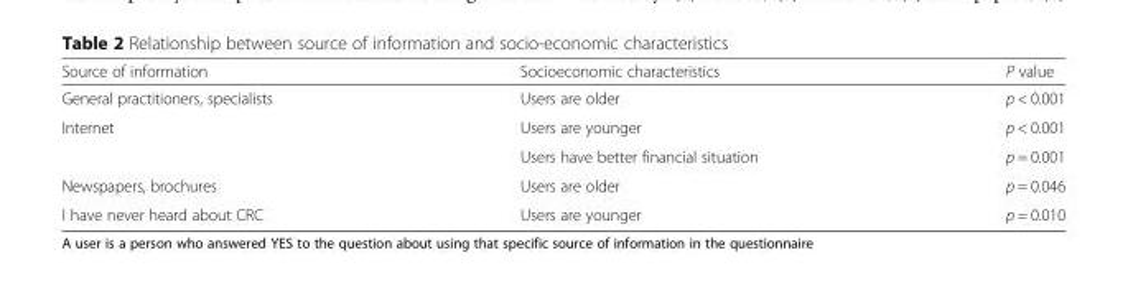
<table><thead><tr><td>Source of information</td><td>Socioeconomic characteristics</td><td>P value</td></tr></thead><tbody><tr><td>General practitioners, specialists</td><td>Users are older</td><td>p &lt; 0.001</td></tr><tr><td rowspan="2">Internet</td><td>Users are younger</td><td>p &lt; 0.001</td></tr><tr><td>Users have better financial situation</td><td>p = 0.001</td></tr><tr><td>Newspapers, brochures</td><td>Users are older</td><td>p = 0.046</td></tr><tr><td>I have never heard about CRC</td><td>Users are younger</td><td>p = 0.010</td></tr></tbody></table>